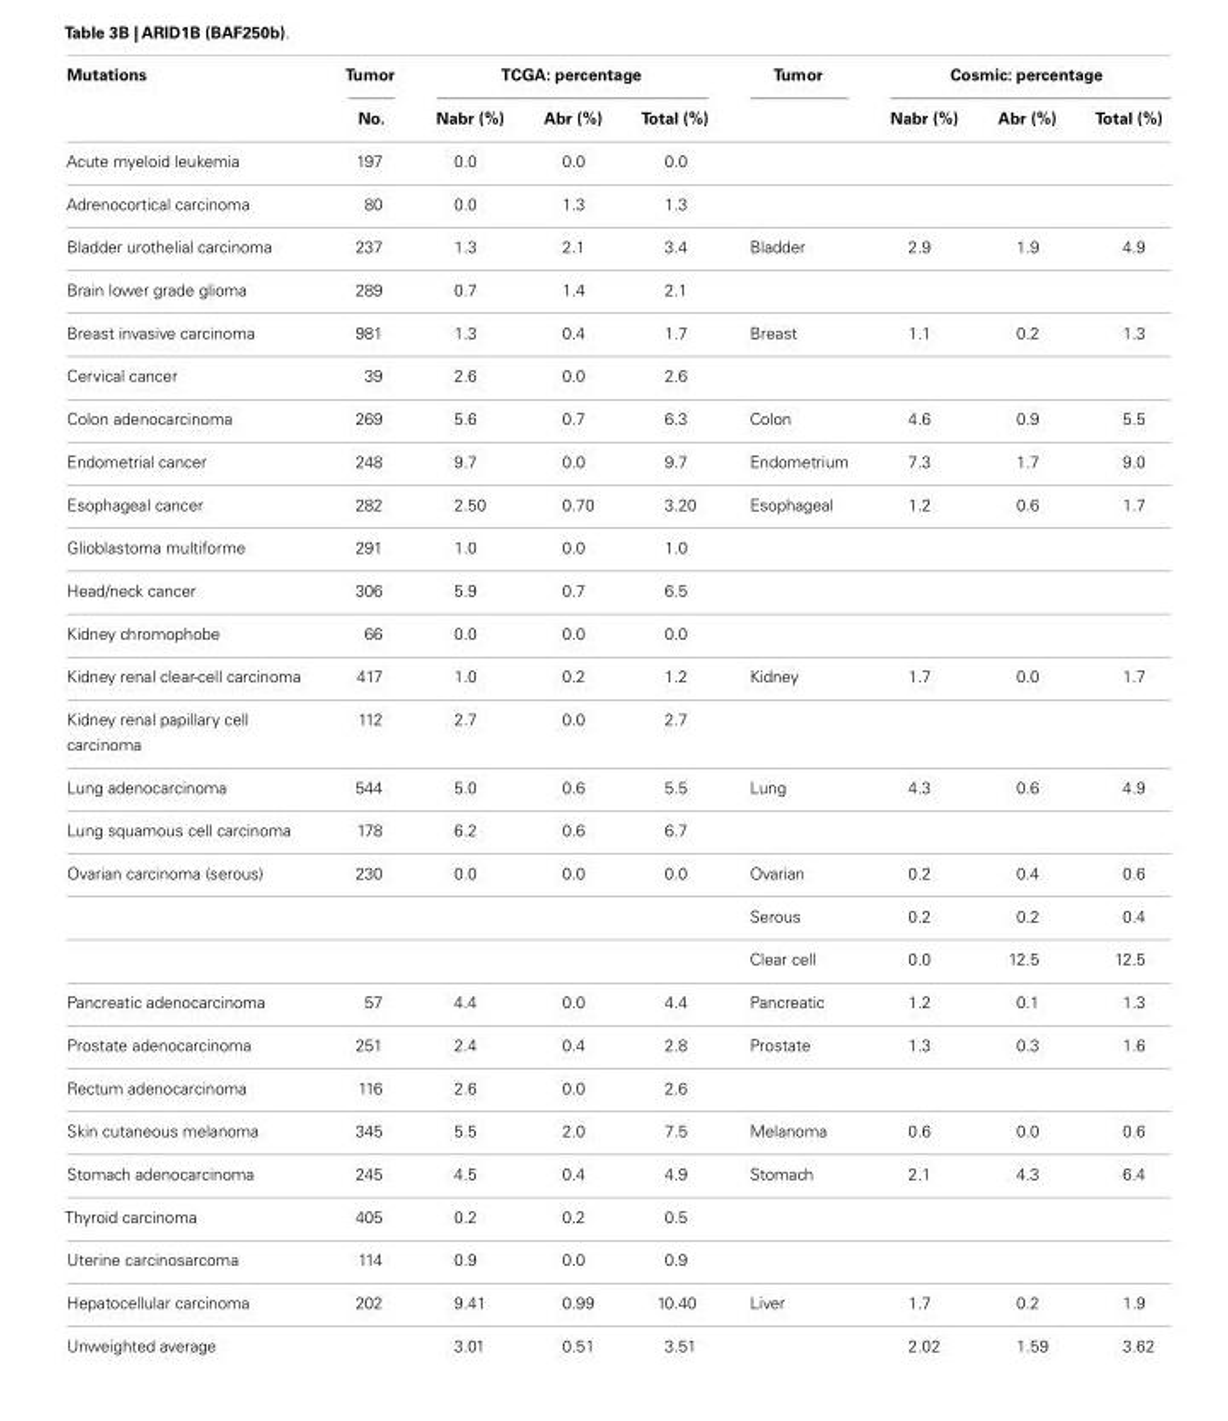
<table><thead><tr><td rowspan="2">Mutations</td><td rowspan="2">Tumor No.</td><td colspan="3">TCGA: percentage</td><td rowspan="2">Tumor</td><td colspan="3">Cosmic: percentage</td></tr><tr><td>Nabr (%)</td><td>Abr (%)</td><td>Total (%)</td><td>Nabr (%)</td><td>Abr (%)</td><td>Total (%)</td></tr></thead><tbody><tr><td>Acute myeloid leukemia</td><td>197</td><td>0.0</td><td>0.0</td><td>0.0</td><td></td><td></td><td></td><td></td></tr><tr><td>Adrenocortical carcinoma</td><td>80</td><td>0.0</td><td>1.3</td><td>1.3</td><td></td><td></td><td></td><td></td></tr><tr><td>Bladder urothelial carcinoma</td><td>237</td><td>1.3</td><td>2.1</td><td>3.4</td><td>Bladder</td><td>2.9</td><td>1.9</td><td>4.9</td></tr><tr><td>Brain lower grade glioma</td><td>289</td><td>0.7</td><td>1.4</td><td>2.1</td><td></td><td></td><td></td><td></td></tr><tr><td>Breast invasive carcinoma</td><td>981</td><td>1.3</td><td>0.4</td><td>1.7</td><td>Breast</td><td>1.1</td><td>0.2</td><td>1.3</td></tr><tr><td>Cervical cancer</td><td>39</td><td>2.6</td><td>0.0</td><td>2.6</td><td></td><td></td><td></td><td></td></tr><tr><td>Colon adenocarcinoma</td><td>269</td><td>5.6</td><td>0.7</td><td>6.3</td><td>Colon</td><td>4.6</td><td>0.9</td><td>5.5</td></tr><tr><td>Endometrial cancer</td><td>248</td><td>9.7</td><td>0.0</td><td>9.7</td><td>Endometrium</td><td>7.3</td><td>1.7</td><td>9.0</td></tr><tr><td>Esophageal cancer</td><td>282</td><td>2.50</td><td>0.70</td><td>3.20</td><td>Esophageal</td><td>1.2</td><td>0.6</td><td>1.7</td></tr><tr><td>Glioblastoma multiforme</td><td>291</td><td>1.0</td><td>0.0</td><td>1.0</td><td></td><td></td><td></td><td></td></tr><tr><td>Head/neck cancer</td><td>306</td><td>5.9</td><td>0.7</td><td>6.5</td><td></td><td></td><td></td><td></td></tr><tr><td>Kidney chromophobe</td><td>66</td><td>0.0</td><td>0.0</td><td>0.0</td><td></td><td></td><td></td><td></td></tr><tr><td>Kidney renal clear-cell carcinoma</td><td>417</td><td>1.0</td><td>0.2</td><td>1.2</td><td>Kidney</td><td>1.7</td><td>0.0</td><td>1.7</td></tr><tr><td>Kidney renal papillary cell carcinoma</td><td>112</td><td>2.7</td><td>0.0</td><td>2.7</td><td></td><td></td><td></td><td></td></tr><tr><td>Lung adenocarcinoma</td><td>544</td><td>5.0</td><td>0.6</td><td>5.5</td><td>Lung</td><td>4.3</td><td>0.6</td><td>4.9</td></tr><tr><td>Lung squamous cell carcinoma</td><td>178</td><td>6.2</td><td>0.6</td><td>6.7</td><td></td><td></td><td></td><td></td></tr><tr><td rowspan="3">Ovarian carcinoma (serous)</td><td>230</td><td>0.0</td><td>0.0</td><td>0.0</td><td>Ovarian</td><td>0.2</td><td>0.4</td><td>0.6</td></tr><tr><td></td><td></td><td></td><td></td><td>Serous</td><td>0.2</td><td>0.2</td><td>0.4</td></tr><tr><td></td><td></td><td></td><td></td><td>Clear cell</td><td>0.0</td><td>12.5</td><td>12.5</td></tr><tr><td>Pancreatic adenocarcinoma</td><td>57</td><td>4.4</td><td>0.0</td><td>4.4</td><td>Pancreatic</td><td>1.2</td><td>0.1</td><td>1.3</td></tr><tr><td>Prostate adenocarcinoma</td><td>251</td><td>2.4</td><td>0.4</td><td>2.8</td><td>Prostate</td><td>1.3</td><td>0.3</td><td>1.6</td></tr><tr><td>Rectum adenocarcinoma</td><td>116</td><td>2.6</td><td>0.0</td><td>2.6</td><td></td><td></td><td></td><td></td></tr><tr><td>Skin cutaneous melanoma</td><td>345</td><td>5.5</td><td>2.0</td><td>7.5</td><td>Melanoma</td><td>0.6</td><td>0.0</td><td>0.6</td></tr><tr><td>Stomach adenocarcinoma</td><td>245</td><td>4.5</td><td>0.4</td><td>4.9</td><td>Stomach</td><td>2.1</td><td>4.3</td><td>6.4</td></tr><tr><td>Thyroid carcinoma</td><td>405</td><td>0.2</td><td>0.2</td><td>0.5</td><td></td><td></td><td></td><td></td></tr><tr><td>Uterine carcinosarcoma</td><td>114</td><td>0.9</td><td>0.0</td><td>0.9</td><td></td><td></td><td></td><td></td></tr><tr><td>Hepatocellular carcinoma</td><td>202</td><td>9.41</td><td>0.99</td><td>10.40</td><td>Liver</td><td>1.7</td><td>0.2</td><td>1.9</td></tr><tr><td>Unweighted average</td><td></td><td>3.01</td><td>0.51</td><td>3.51</td><td></td><td>2.02</td><td>1.59</td><td>3.62</td></tr></tbody></table>